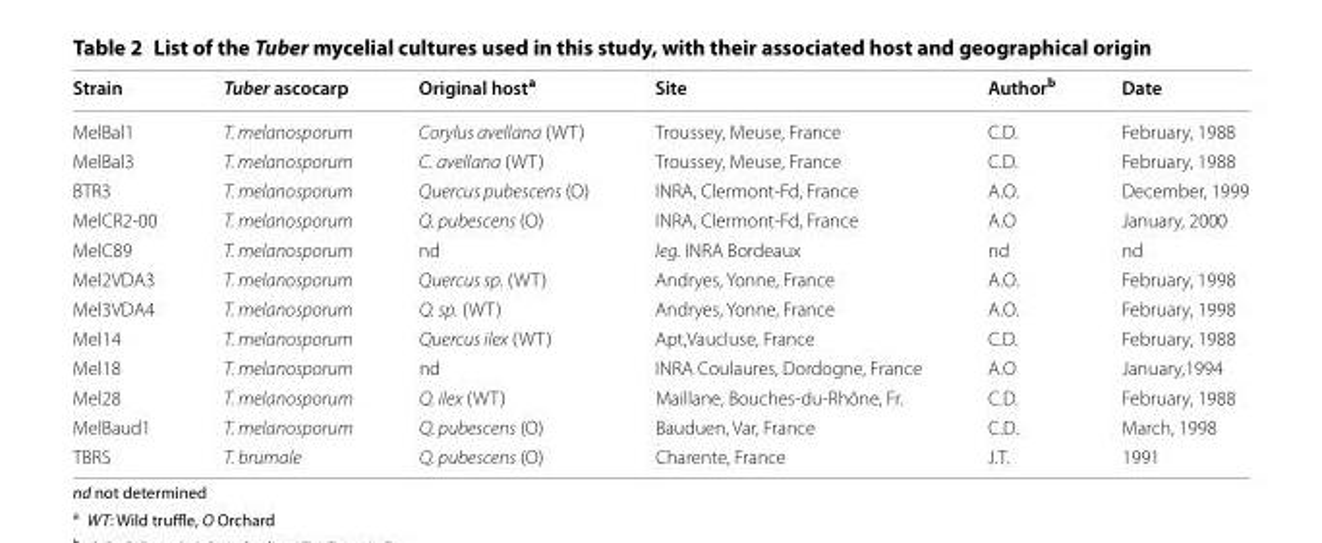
<table><thead><tr><td>Strain</td><td>Tuber ascocarp</td><td>Original host<sup>a</sup></td><td>Site</td><td>Author<sup>b</sup></td><td>Date</td></tr></thead><tbody><tr><td>MelBal1</td><td>T. melanosporum</td><td>Corylus avellana (WT)</td><td>Troussey, Meuse, France</td><td>C.D.</td><td>February, 1988</td></tr><tr><td>MelBal3</td><td>T. melanosporum</td><td>C. avellana (WT)</td><td>Troussey, Meuse, France</td><td>C.D.</td><td>February, 1988</td></tr><tr><td>BTR3</td><td>T. melanosporum</td><td>Quercus pubescens (O)</td><td>INRA, Clermont-Fd, France</td><td>A.O.</td><td>December, 1999</td></tr><tr><td>MelCR2-00</td><td>T. melanosporum</td><td>Q. pubescens (O)</td><td>INRA, Clermont-Fd, France</td><td>A.O</td><td>January, 2000</td></tr><tr><td>MelC89</td><td>T. melanosporum</td><td>nd</td><td>leg. INRA Bordeaux</td><td>nd</td><td>nd</td></tr><tr><td>Mel2VDA3</td><td>T. melanosporum</td><td>Quercus sp. (WT)</td><td>Andryes, Yonne, France</td><td>A.O.</td><td>February, 1998</td></tr><tr><td>Mel3VDA4</td><td>T. melanosporum</td><td>Q. sp. (WT)</td><td>Andryes, Yonne, France</td><td>A.O.</td><td>February, 1998</td></tr><tr><td>Mel14</td><td>T. melanosporum</td><td>Quercus ilex (WT)</td><td>Apt,Vaucluse, France</td><td>C.D.</td><td>February, 1988</td></tr><tr><td>Mel18</td><td>T. melanosporum</td><td>nd</td><td>INRA Coulaures, Dordogne, France</td><td>A.O</td><td>January,1994</td></tr><tr><td>Mel28</td><td>T. melanosporum</td><td>Q. ilex (WT)</td><td>Maillane, Bouches-du-Rhône, Fr.</td><td>C.D.</td><td>February, 1988</td></tr><tr><td>MelBaud1</td><td>T. melanosporum</td><td>Q. pubescens (O)</td><td>Bauduen, Var, France</td><td>C.D.</td><td>March, 1998</td></tr><tr><td>TBRS</td><td>T. brumale</td><td>Q. pubescens (O)</td><td>Charente, France</td><td>J.T.</td><td>1991</td></tr></tbody></table>